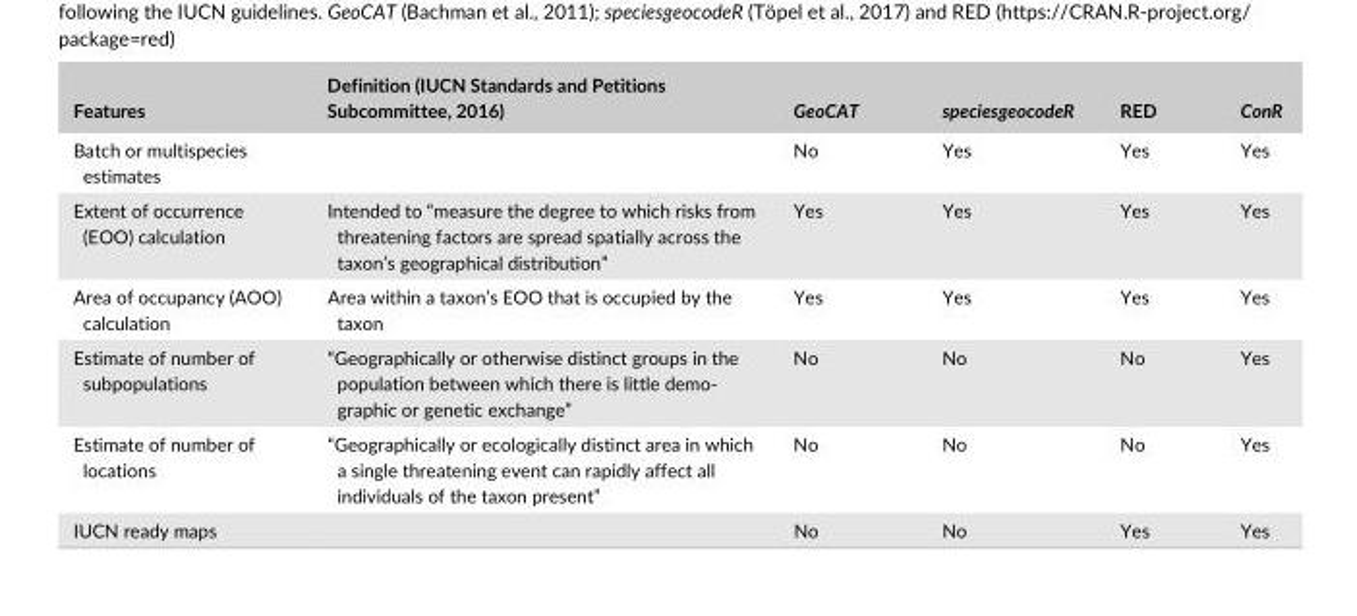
<table><thead><tr><td>Features</td><td>Definition (IUCN Standards and Petitions Subcommittee, 2016)</td><td>GeoCAT</td><td>speciesgeocodeR</td><td>RED</td><td>ConR</td></tr></thead><tbody><tr><td>Batch or multispecies estimates</td><td></td><td>No</td><td>Yes</td><td>Yes</td><td>Yes</td></tr><tr><td>Extent of occurrence (EOO) calculation</td><td>Intended to “measure the degree to which risks from threatening factors are spread spatially across the taxon’s geographical distribution”</td><td>Yes</td><td>Yes</td><td>Yes</td><td>Yes</td></tr><tr><td>Area of occupancy (AOO) calculation</td><td>Area within a taxon’s EOO that is occupied by the taxon</td><td>Yes</td><td>Yes</td><td>Yes</td><td>Yes</td></tr><tr><td>Estimate of number of subpopulations</td><td>“Geographically or otherwise distinct groups in the population between which there is little demo- graphic or genetic exchange”</td><td>No</td><td>No</td><td>No</td><td>Yes</td></tr><tr><td>Estimate of number of locations</td><td>“Geographically or ecologically distinct area in which a single threatening event can rapidly affect all individuals of the taxon present”</td><td>No</td><td>No</td><td>No</td><td>Yes</td></tr><tr><td>IUCN ready maps</td><td></td><td>No</td><td>No</td><td>Yes</td><td>Yes</td></tr></tbody></table>